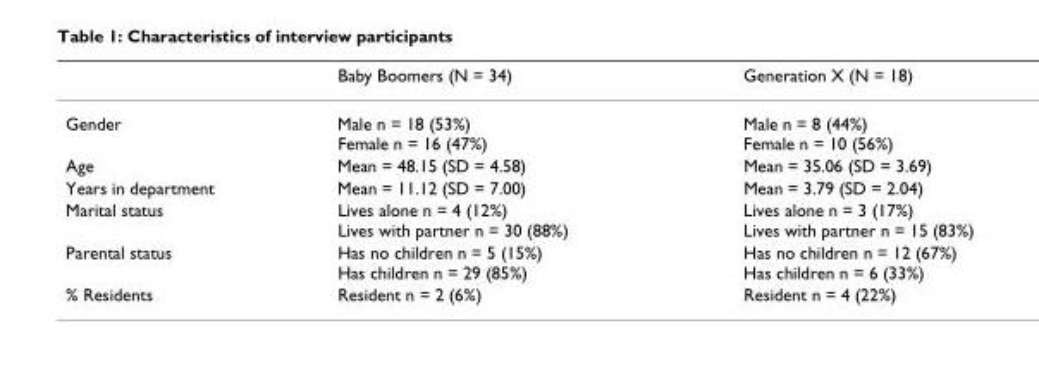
<table><thead><tr><td></td><td>Baby Boomers (N = 34)</td><td>Generation X (N = 18)</td></tr></thead><tbody><tr><td>Gender</td><td>Male n = 18 (53%) Female n = 16 (47%)</td><td>Male n = 8 (44%) Female n = 10 (56%)</td></tr><tr><td>Age</td><td>Mean = 48.15 (SD = 4.58)</td><td>Mean = 35.06 (SD = 3.69)</td></tr><tr><td>Years in department</td><td>Mean = 11.12 (SD = 7.00)</td><td>Mean = 3.79 (SD = 2.04)</td></tr><tr><td>Marital status</td><td>Lives alone n = 4 (12%) Lives with partner n = 30 (88%)</td><td>Lives alone n = 3 (17%) Lives with partner n = 15 (83%)</td></tr><tr><td>Parental status</td><td>Has no children n = 5 (15%) Has children n = 29 (85%)</td><td>Has no children n = 12 (67%) Has children n = 6 (33%)</td></tr><tr><td>% Residents</td><td>Resident n = 2 (6%)</td><td>Resident n = 4 (22%)</td></tr></tbody></table>